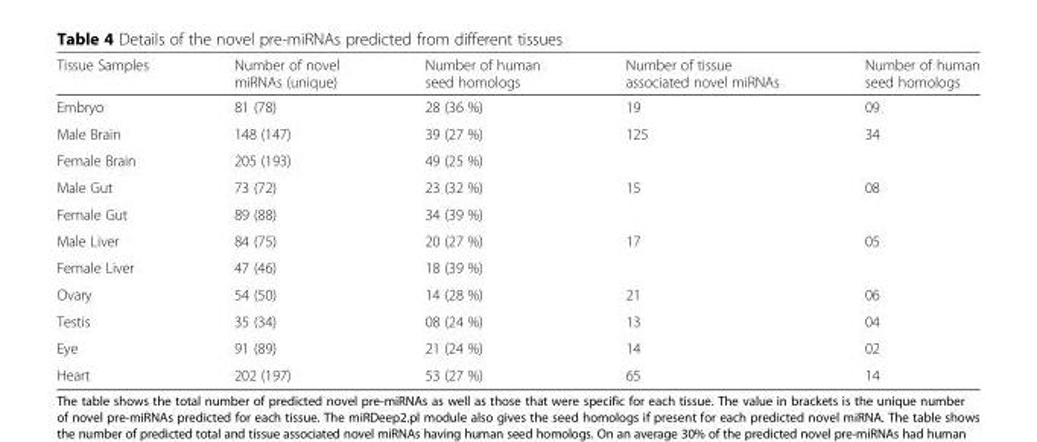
<table><thead><tr><td>Tissue Samples</td><td>Number of novel miRNAs (unique)</td><td>Number of human seed homologs</td><td>Number of tissue associated novel miRNAs</td><td>Number of human seed homologs</td></tr></thead><tbody><tr><td>Embryo</td><td>81 (78)</td><td>28 (36 %)</td><td>19</td><td>09</td></tr><tr><td>Male Brain</td><td>148 (147)</td><td>39 (27 %)</td><td rowspan="2">125</td><td rowspan="2">34</td></tr><tr><td>Female Brain</td><td>205 (193)</td><td>49 (25 %)</td></tr><tr><td>Male Gut</td><td>73 (72)</td><td>23 (32 %)</td><td rowspan="2">15</td><td rowspan="2">08</td></tr><tr><td>Female Gut</td><td>89 (88)</td><td>34 (39 %)</td></tr><tr><td>Male Liver</td><td>84 (75)</td><td>20 (27 %)</td><td rowspan="2">17</td><td rowspan="2">05</td></tr><tr><td>Female Liver</td><td>47 (46)</td><td>18 (39 %)</td></tr><tr><td>Ovary</td><td>54 (50)</td><td>14 (28 %)</td><td>21</td><td>06</td></tr><tr><td>Testis</td><td>35 (34)</td><td>08 (24 %)</td><td>13</td><td>04</td></tr><tr><td>Eye</td><td>91 (89)</td><td>21 (24 %)</td><td>14</td><td>02</td></tr><tr><td>Heart</td><td>202 (197)</td><td>53 (27 %)</td><td>65</td><td>14</td></tr></tbody></table>